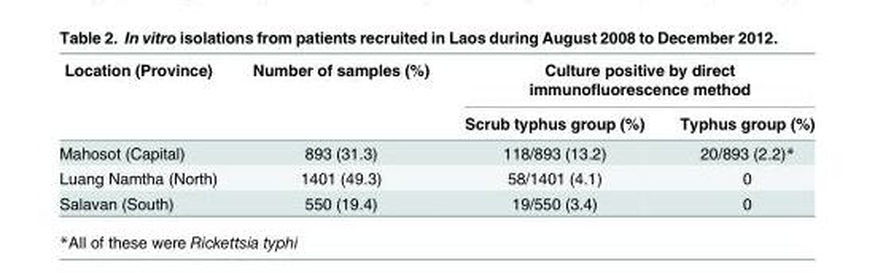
<table><thead><tr><td rowspan="2">Location (Province)</td><td rowspan="2">Number of samples (%)</td><td colspan="2">Culture positive by direct immunofluorescence method</td></tr><tr><td>Scrub typhus group (%)</td><td>Typhus group (%)</td></tr></thead><tbody><tr><td>Mahosot (Capital)</td><td>893 (31.3)</td><td>118/893 (13.2)</td><td>20/893 (2.2)*</td></tr><tr><td>Luang Namtha (North)</td><td>1401 (49.3)</td><td>58/1401 (4.1)</td><td>0</td></tr><tr><td>Salavan (South)</td><td>550 (19.4)</td><td>19/550 (3.4)</td><td>0</td></tr></tbody></table>